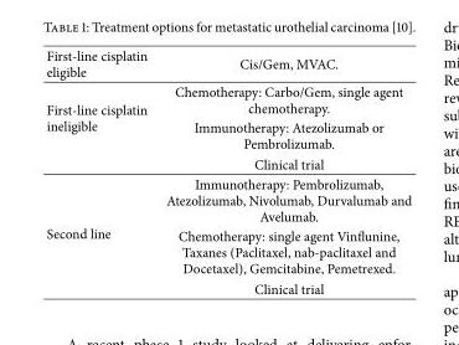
<table><tbody><tr><td>First-line cisplatin eligible</td><td>Cis/Gem, MVAC.</td></tr><tr><td rowspan="3">First-line cisplatin ineligible</td><td>Chemotherapy: Carbo/Gem, single agent chemotherapy.</td></tr><tr><td>Immunotherapy: Atezolizumab or Pembrolizumab.</td></tr><tr><td>Clinical trial</td></tr><tr><td rowspan="3">Second line</td><td>Immunotherapy: Pembrolizumab, Atezolizumab, Nivolumab, Durvalumab and Avelumab.</td></tr><tr><td>Chemotherapy: single agent Vinflunine, Taxanes (Paclitaxel, nab-paclitaxel and Docetaxel), Gemcitabine, Pemetrexed.</td></tr><tr><td>Clinical trial</td></tr></tbody></table>